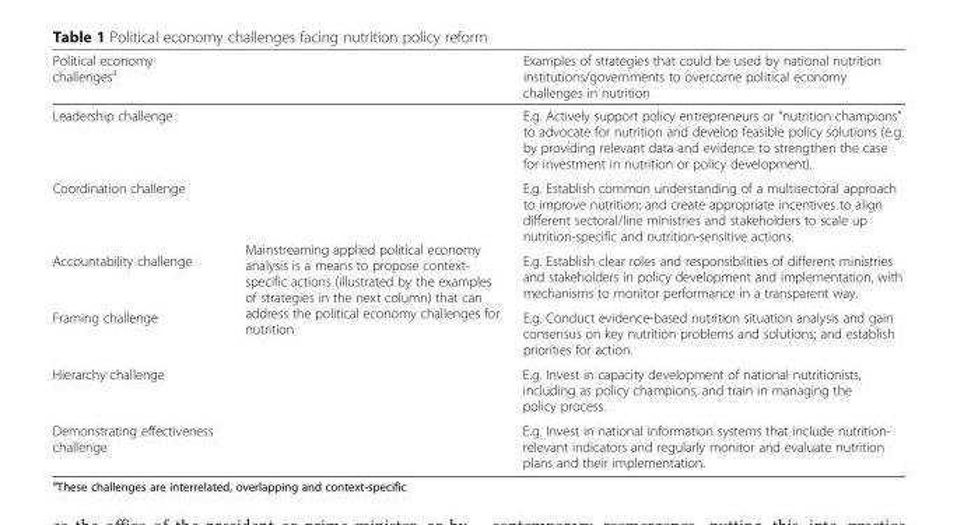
<table><thead><tr><td>Political economy challenges<sup>a</sup></td><td></td><td>Examples of strategies that could be used by national nutrition institutions/governments to overcome political economy challenges in nutrition</td></tr></thead><tbody><tr><td>Leadership challenge</td><td rowspan="6">Mainstreaming applied political economy analysis is a means to propose context- specific actions (illustrated by the examples of strategies in the next column) that can address the political economy challenges for nutrition</td><td>E.g. Actively support policy entrepreneurs or “nutrition champions” to advocate for nutrition and develop feasible policy solutions (e.g. by providing relevant data and evidence to strengthen the case for investment in nutrition or policy development).</td></tr><tr><td>Coordination challenge</td><td>E.g. Establish common understanding of a multisectoral approach to improve nutrition; and create appropriate incentives to align different sectoral/line ministries and stakeholders to scale up nutrition-specific and nutrition-sensitive actions.</td></tr><tr><td>Accountability challenge</td><td>E.g. Establish clear roles and responsibilities of different ministries and stakeholders in policy development and implementation, with mechanisms to monitor performance in a transparent way.</td></tr><tr><td>Framing challenge</td><td>E.g. Conduct evidence-based nutrition situation analysis and gain consensus on key nutrition problems and solutions; and establish priorities for action.</td></tr><tr><td>Hierarchy challenge</td><td>E.g. Invest in capacity development of national nutritionists, including as policy champions, and train in managing the policy process.</td></tr><tr><td>Demonstrating effectiveness challenge</td><td>E.g. Invest in national information systems that include nutrition- relevant indicators and regularly monitor and evaluate nutrition plans and their implementation.</td></tr></tbody></table>